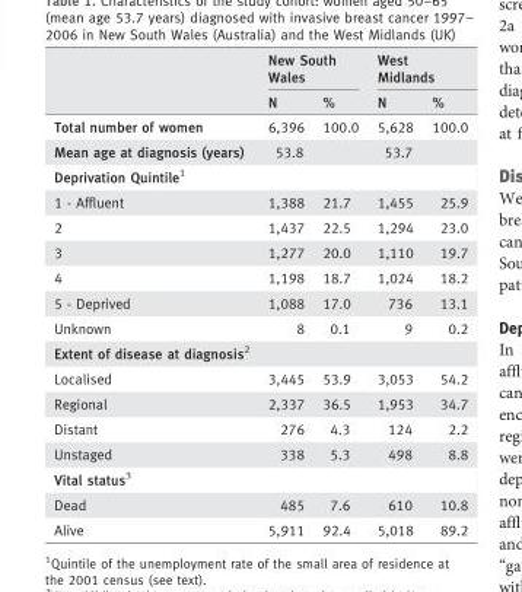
<table><thead><tr><td rowspan="2"></td><td colspan="2">New South Wales</td><td colspan="2">West Midlands</td></tr><tr><td>N</td><td>%</td><td>N</td><td>%</td></tr></thead><tbody><tr><td>Total number of women</td><td>6,396</td><td>100.0</td><td>5,628</td><td>100.0</td></tr><tr><td>Mean age at diagnosis (years)</td><td>53.8</td><td></td><td>53.7</td><td></td></tr><tr><td colspan="5">Deprivation Quintile1</td></tr><tr><td>1 - Affluent</td><td>1,388</td><td>21.7</td><td>1,455</td><td>25.9</td></tr><tr><td>2</td><td>1,437</td><td>22.5</td><td>1,294</td><td>23.0</td></tr><tr><td>3</td><td>1,277</td><td>20.0</td><td>1,110</td><td>19.7</td></tr><tr><td>4</td><td>1,198</td><td>18.7</td><td>1,024</td><td>18.2</td></tr><tr><td>5 - Deprived</td><td>1,088</td><td>17.0</td><td>736</td><td>13.1</td></tr><tr><td>Unknown</td><td>8</td><td>0.1</td><td>9</td><td>0.2</td></tr><tr><td colspan="5">Extent of disease at diagnosis2</td></tr><tr><td>Localised</td><td>3,445</td><td>53.9</td><td>3,053</td><td>54.2</td></tr><tr><td>Regional</td><td>2,337</td><td>36.5</td><td>1,953</td><td>34.7</td></tr><tr><td>Distant</td><td>276</td><td>4.3</td><td>124</td><td>2.2</td></tr><tr><td>Unstaged</td><td>338</td><td>5.3</td><td>498</td><td>8.8</td></tr><tr><td colspan="5">Vital status3</td></tr><tr><td>Dead</td><td>485</td><td>7.6</td><td>610</td><td>10.8</td></tr><tr><td>Alive</td><td>5,911</td><td>92.4</td><td>5,018</td><td>89.2</td></tr></tbody></table>